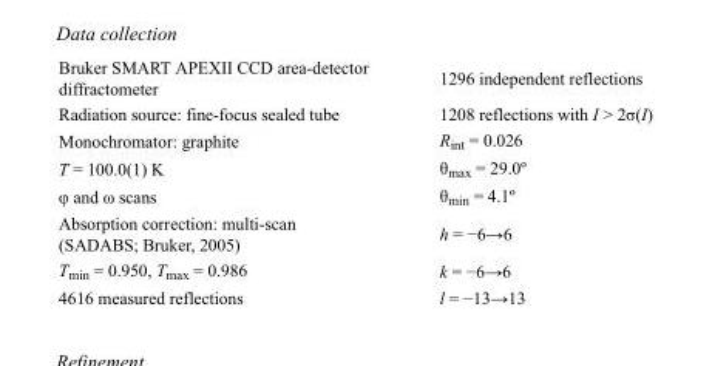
<table><tbody><tr><td>Bruker SMART APEXII CCD area-detector diffractometer</td><td>1296 independent reflections</td></tr><tr><td>Radiation source: fine-focus sealed tube</td><td>1208 reflections with I &gt; 2σ(I)</td></tr><tr><td>Monochromator: graphite</td><td>R<sub>int</sub> = 0.026</td></tr><tr><td>T = 100.0(1) K</td><td>θ<sub>max</sub> = 29.0º</td></tr><tr><td>φ and ω scans</td><td>θ<sub>min</sub> = 4.1º</td></tr><tr><td>Absorption correction: multi-scan (SADABS; Bruker, 2005)</td><td>h = −6→6</td></tr><tr><td>T<sub>min</sub> = 0.950, T<sub>max</sub> = 0.986</td><td>k = −6→6</td></tr><tr><td>4616 measured reflections</td><td>l = −13→13</td></tr></tbody></table>